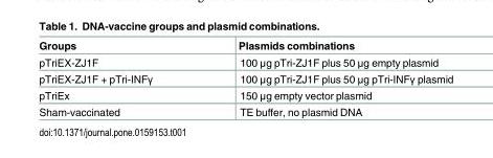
<table><thead><tr><td>Groups</td><td>Plasmids combinations</td></tr></thead><tbody><tr><td>pTriEX-ZJ1F</td><td>100 μg pTri-ZJ1F plus 50 μg empty plasmid</td></tr><tr><td>pTriEX-ZJ1F + pTri-INFγ</td><td>100 μg pTri-ZJ1F plus 50 μg pTri-INFγ plasmid</td></tr><tr><td>pTriEx</td><td>150 μg empty vector plasmid</td></tr><tr><td>Sham-vaccinated</td><td>TE buffer, no plasmid DNA</td></tr></tbody></table>